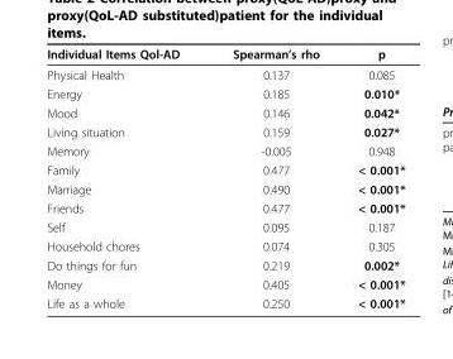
<table><thead><tr><td>Individual Items Qol-AD</td><td>Spearman’s rho</td><td>p</td></tr></thead><tbody><tr><td>Physical Health</td><td>0.137</td><td>0.085</td></tr><tr><td>Energy</td><td>0.185</td><td>0.010*</td></tr><tr><td>Mood</td><td>0.146</td><td>0.042*</td></tr><tr><td>Living situation</td><td>0.159</td><td>0.027*</td></tr><tr><td>Memory</td><td>-0.005</td><td>0.948</td></tr><tr><td>Family</td><td>0.477</td><td>&lt; 0.001*</td></tr><tr><td>Marriage</td><td>0.490</td><td>&lt; 0.001*</td></tr><tr><td>Friends</td><td>0.477</td><td>&lt; 0.001*</td></tr><tr><td>Self</td><td>0.095</td><td>0.187</td></tr><tr><td>Household chores</td><td>0.074</td><td>0.305</td></tr><tr><td>Do things for fun</td><td>0.219</td><td>0.002*</td></tr><tr><td>Money</td><td>0.405</td><td>&lt; 0.001*</td></tr><tr><td>Life as a whole</td><td>0.250</td><td>&lt; 0.001*</td></tr></tbody></table>